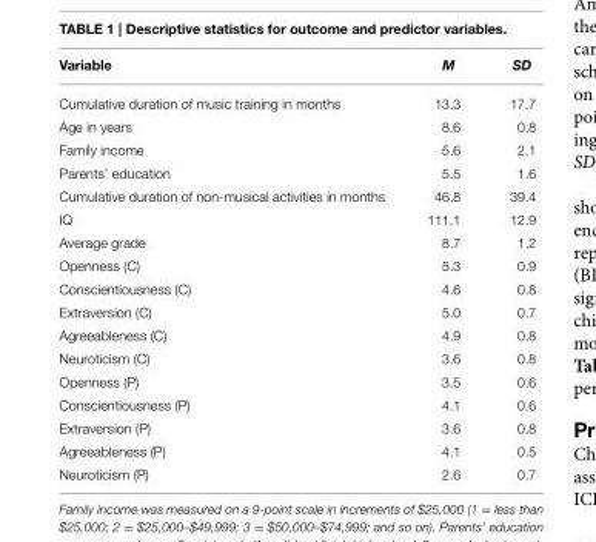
<table><thead><tr><td>Variable</td><td>M</td><td>SD</td></tr></thead><tbody><tr><td>Cumulative duration of music training in months</td><td>13.3</td><td>17.7</td></tr><tr><td>Age in years</td><td>8.6</td><td>0.8</td></tr><tr><td>Family income</td><td>5.6</td><td>2.1</td></tr><tr><td>Parents’ education</td><td>5.5</td><td>1.6</td></tr><tr><td>Cumulative duration of non-musical activities in months</td><td>46.8</td><td>39.4</td></tr><tr><td>IQ</td><td>111.1</td><td>12.9</td></tr><tr><td>Average grade</td><td>8.7</td><td>1.2</td></tr><tr><td>Openness (C)</td><td>5.3</td><td>0.9</td></tr><tr><td>Conscientiousness (C)</td><td>4.6</td><td>0.8</td></tr><tr><td>Extraversion (C)</td><td>5.0</td><td>0.7</td></tr><tr><td>Agreeableness (C)</td><td>4.9</td><td>0.8</td></tr><tr><td>Neuroticism (C)</td><td>3.6</td><td>0.8</td></tr><tr><td>Openness (P)</td><td>3.5</td><td>0.6</td></tr><tr><td>Conscientiousness (P)</td><td>4.1</td><td>0.6</td></tr><tr><td>Extraversion (P)</td><td>3.6</td><td>0.8</td></tr><tr><td>Agreeableness (P)</td><td>4.1</td><td>0.5</td></tr><tr><td>Neuroticism (P)</td><td>2.6</td><td>0.7</td></tr></tbody></table>